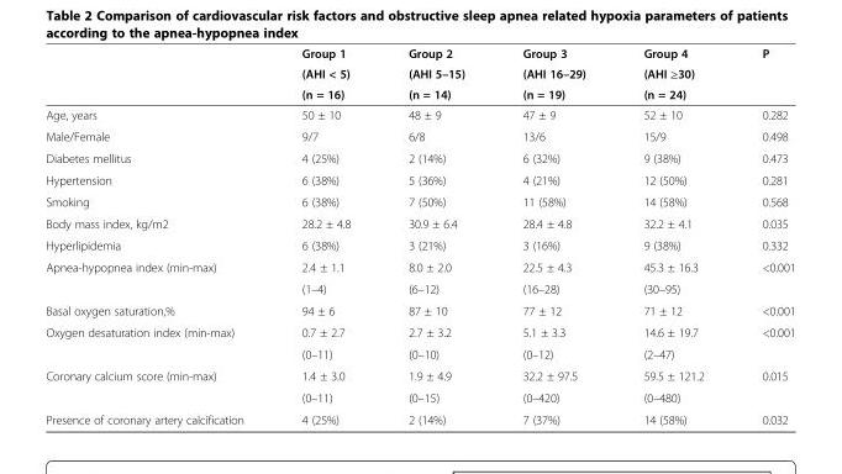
<table><thead><tr><td rowspan="3"></td><td rowspan="3">Group 1 (AHI &lt; 5) (n = 16)</td><td rowspan="3">Group 2 (AHI 5–15) (n = 14)</td><td rowspan="3">Group 3 (AHI 16–29) (n = 19)</td><td rowspan="3">Group 4 (AHI ≥30) (n = 24)</td><td rowspan="3">P</td></tr><tr></tr><tr></tr></thead><tbody><tr><td>Age, years</td><td>50 ± 10</td><td>48 ± 9</td><td>47 ± 9</td><td>52 ± 10</td><td>0.282</td></tr><tr><td>Male/Female</td><td>9/7</td><td>6/8</td><td>13/6</td><td>15/9</td><td>0.498</td></tr><tr><td>Diabetes mellitus</td><td>4 (25%)</td><td>2 (14%)</td><td>6 (32%)</td><td>9 (38%)</td><td>0.473</td></tr><tr><td>Hypertension</td><td>6 (38%)</td><td>5 (36%)</td><td>4 (21%)</td><td>12 (50%)</td><td>0.281</td></tr><tr><td>Smoking</td><td>6 (38%)</td><td>7 (50%)</td><td>11 (58%)</td><td>14 (58%)</td><td>0.568</td></tr><tr><td>Body mass index, kg/m2</td><td>28.2 ± 4.8</td><td>30.9 ± 6.4</td><td>28.4 ± 4.8</td><td>32.2 ± 4.1</td><td>0.035</td></tr><tr><td>Hyperlipidemia</td><td>6 (38%)</td><td>3 (21%)</td><td>3 (16%)</td><td>9 (38%)</td><td>0.332</td></tr><tr><td rowspan="2">Apnea-hypopnea index (min-max)</td><td>2.4 ± 1.1</td><td>8.0 ± 2.0</td><td>22.5 ± 4.3</td><td>45.3 ± 16.3</td><td rowspan="2">&lt;0.001</td></tr><tr><td>(1–4)</td><td>(6–12)</td><td>(16–28)</td><td>(30–95)</td></tr><tr><td>Basal oxygen saturation,%</td><td>94 ± 6</td><td>87 ± 10</td><td>77 ± 12</td><td>71 ± 12</td><td>&lt;0.001</td></tr><tr><td rowspan="2">Oxygen desaturation index (min-max)</td><td>0.7 ± 2.7</td><td>2.7 ± 3.2</td><td>5.1 ± 3.3</td><td>14.6 ± 19.7</td><td rowspan="2">&lt;0.001</td></tr><tr><td>(0–11)</td><td>(0–10)</td><td>(0–12)</td><td>(2–47)</td></tr><tr><td rowspan="2">Coronary calcium score (min-max)</td><td>1.4 ± 3.0</td><td>1.9 ± 4.9</td><td>32.2 ± 97.5</td><td>59.5 ± 121.2</td><td rowspan="2">0.015</td></tr><tr><td>(0–11)</td><td>(0–15)</td><td>(0–420)</td><td>(0–480)</td></tr><tr><td>Presence of coronary artery calcification</td><td>4 (25%)</td><td>2 (14%)</td><td>7 (37%)</td><td>14 (58%)</td><td>0.032</td></tr></tbody></table>